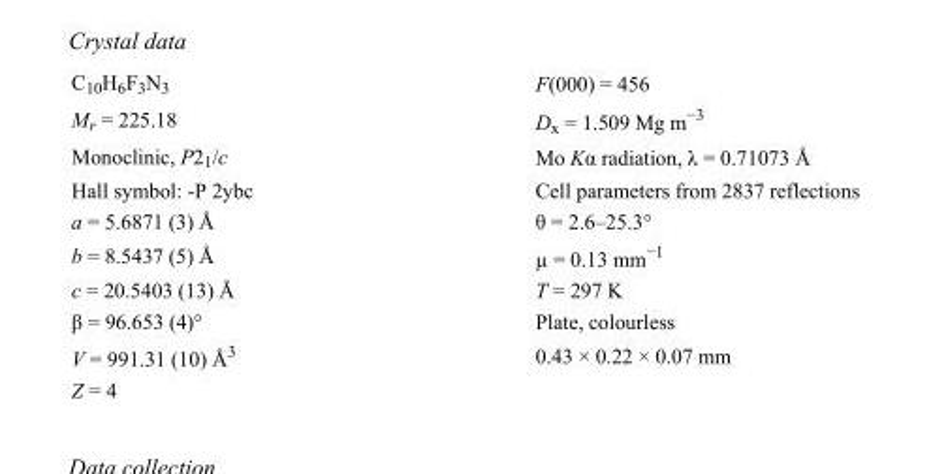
<table><tbody><tr><td>C<sub>10</sub>H<sub>6</sub>F<sub>3</sub>N<sub>3</sub></td><td>F(000) = 456</td></tr><tr><td>M<sub>r</sub> = 225.18</td><td>D<sub>x</sub> = 1.509 Mg m<sup>−3</sup></td></tr><tr><td>Monoclinic, P2<sub>1</sub>/c</td><td>Mo Kα radiation, λ = 0.71073 Å</td></tr><tr><td>Hall symbol: -P 2ybc</td><td>Cell parameters from 2837 reflections</td></tr><tr><td>a = 5.6871 (3) Å</td><td>θ = 2.6–25.3°</td></tr><tr><td>b = 8.5437 (5) Å</td><td>µ = 0.13 mm<sup>−1</sup></td></tr><tr><td>c = 20.5403 (13) Å</td><td>T = 297 K</td></tr><tr><td>β = 96.653 (4)°</td><td>Plate, colourless</td></tr><tr><td>V = 991.31 (10) Å<sup>3</sup></td><td>0.43 × 0.22 × 0.07 mm</td></tr><tr><td>Z = 4</td><td></td></tr></tbody></table>